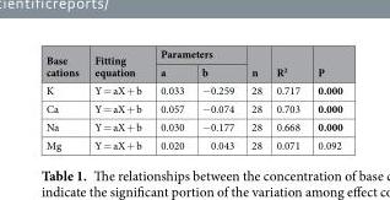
<table><thead><tr><td rowspan="2">Base cations</td><td rowspan="2">Fitting equation</td><td colspan="2">Parameters</td><td rowspan="2">n</td><td rowspan="2">R<sup>2</sup></td><td rowspan="2">P</td></tr><tr><td>a</td><td>b</td></tr></thead><tbody><tr><td>K</td><td>Y = aX + b</td><td>0.033</td><td>−0.259</td><td>28</td><td>0.717</td><td>0.000</td></tr><tr><td>Ca</td><td>Y = aX + b</td><td>0.057</td><td>−0.074</td><td>28</td><td>0.703</td><td>0.000</td></tr><tr><td>Na</td><td>Y = aX + b</td><td>0.030</td><td>−0.177</td><td>28</td><td>0.668</td><td>0.000</td></tr><tr><td>Mg</td><td>Y = aX + b</td><td>0.020</td><td>0.043</td><td>28</td><td>0.071</td><td>0.092</td></tr></tbody></table>